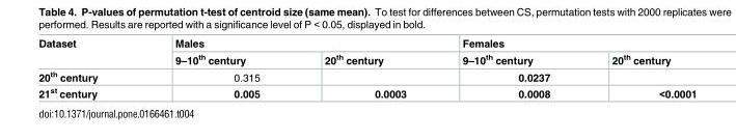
<table><thead><tr><td rowspan="2">Dataset</td><td colspan="2">Males</td><td colspan="2">Females</td></tr><tr><td>9–10<sup>th</sup> century</td><td>20<sup>th</sup> century</td><td>9–10<sup>th</sup> century</td><td>20<sup>th</sup> century</td></tr></thead><tbody><tr><td>20<sup>th</sup> century</td><td>0.315</td><td></td><td>0.0237</td><td></td></tr><tr><td>21<sup>st</sup> century</td><td>0.005</td><td>0.0003</td><td>0.0008</td><td>&lt;0.0001</td></tr></tbody></table>